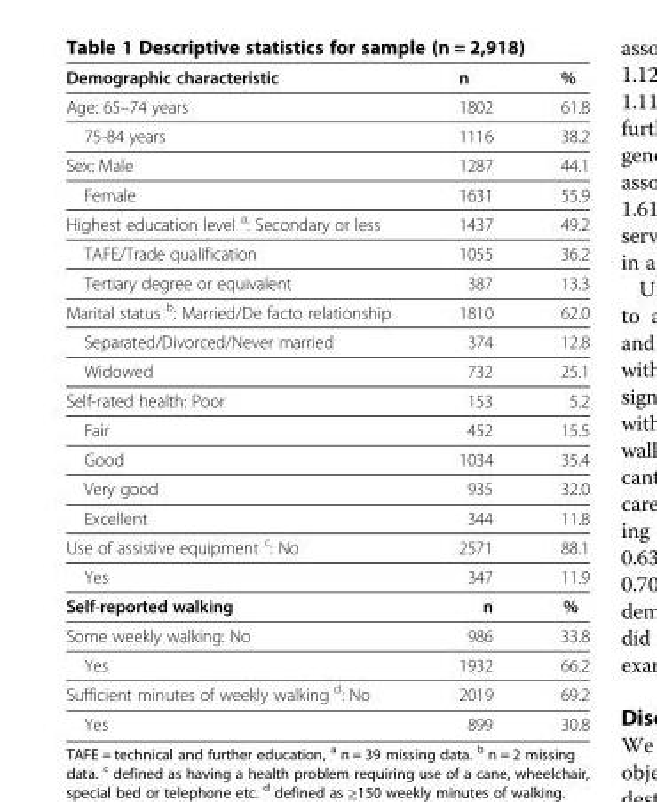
<table><thead><tr><td>Demographic characteristic</td><td>n</td><td>%</td></tr></thead><tbody><tr><td>Age: 65–74 years</td><td>1802</td><td>61.8</td></tr><tr><td>75-84 years</td><td>1116</td><td>38.2</td></tr><tr><td>Sex: Male</td><td>1287</td><td>44.1</td></tr><tr><td>Female</td><td>1631</td><td>55.9</td></tr><tr><td>Highest education level <sup>a</sup>: Secondary or less</td><td>1437</td><td>49.2</td></tr><tr><td>TAFE/Trade qualification</td><td>1055</td><td>36.2</td></tr><tr><td>Tertiary degree or equivalent</td><td>387</td><td>13.3</td></tr><tr><td>Marital status <sup>b</sup>: Married/De facto relationship</td><td>1810</td><td>62.0</td></tr><tr><td>Separated/Divorced/Never married</td><td>374</td><td>12.8</td></tr><tr><td>Widowed</td><td>732</td><td>25.1</td></tr><tr><td>Self-rated health: Poor</td><td>153</td><td>5.2</td></tr><tr><td>Fair</td><td>452</td><td>15.5</td></tr><tr><td>Good</td><td>1034</td><td>35.4</td></tr><tr><td>Very good</td><td>935</td><td>32.0</td></tr><tr><td>Excellent</td><td>344</td><td>11.8</td></tr><tr><td>Use of assistive equipment <sup>c</sup>: No</td><td>2571</td><td>88.1</td></tr><tr><td>Yes</td><td>347</td><td>11.9</td></tr><tr><td>Self-reported walking</td><td>n</td><td>%</td></tr><tr><td>Some weekly walking: No</td><td>986</td><td>33.8</td></tr><tr><td>Yes</td><td>1932</td><td>66.2</td></tr><tr><td>Sufficient minutes of weekly walking <sup>d</sup>: No</td><td>2019</td><td>69.2</td></tr><tr><td>Yes</td><td>899</td><td>30.8</td></tr></tbody></table>